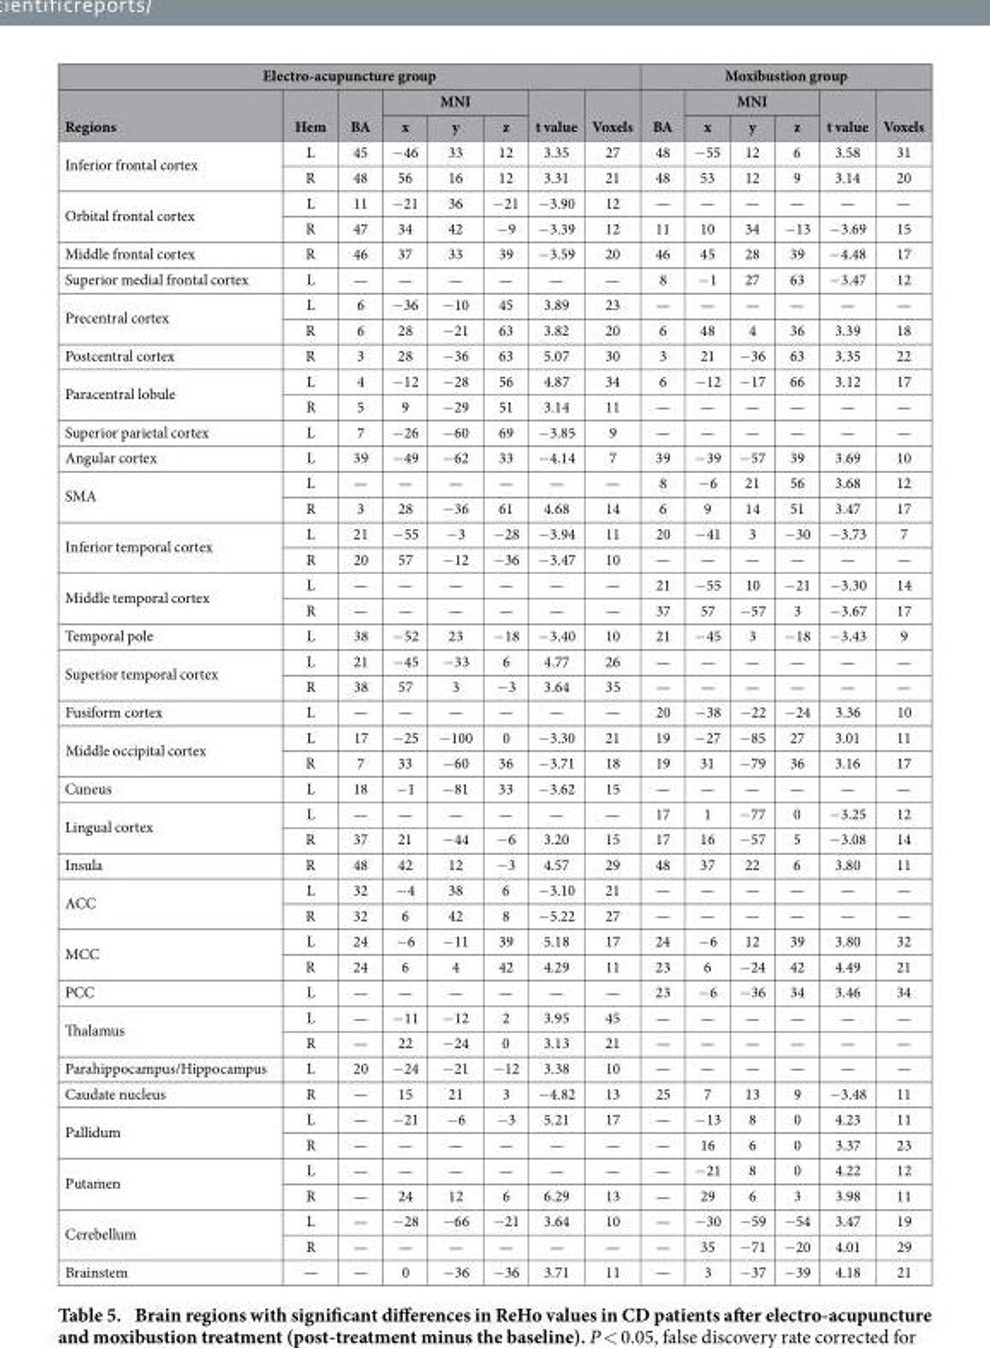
<table><thead><tr><td colspan="8">Electro-acupuncture group</td><td colspan="6">Moxibustion group</td></tr><tr><td rowspan="2">Regions</td><td rowspan="2">Hem</td><td rowspan="2">BA</td><td colspan="3">MNI</td><td rowspan="2">t value</td><td rowspan="2">Voxels</td><td rowspan="2">BA</td><td colspan="3">MNI</td><td rowspan="2">t value</td><td rowspan="2">Voxels</td></tr><tr><td>x</td><td>y</td><td>z</td><td>x</td><td>y</td><td>z</td></tr></thead><tbody><tr><td rowspan="2">Inferior frontal cortex</td><td>L</td><td>45</td><td>− 46</td><td>33</td><td>12</td><td>3.35</td><td>27</td><td>48</td><td>− 55</td><td>12</td><td>6</td><td>3.58</td><td>31</td></tr><tr><td>R</td><td>48</td><td>56</td><td>16</td><td>12</td><td>3.31</td><td>21</td><td>48</td><td>53</td><td>12</td><td>9</td><td>3.14</td><td>20</td></tr><tr><td rowspan="2">Orbital frontal cortex</td><td>L</td><td>11</td><td>− 21</td><td>36</td><td>− 21</td><td>− 3.90</td><td>12</td><td>—</td><td>—</td><td>—</td><td>—</td><td>—</td><td>—</td></tr><tr><td>R</td><td>47</td><td>34</td><td>42</td><td>− 9</td><td>− 3.39</td><td>12</td><td>11</td><td>10</td><td>34</td><td>− 13</td><td>− 3.69</td><td>15</td></tr><tr><td>Middle frontal cortex</td><td>R</td><td>46</td><td>37</td><td>33</td><td>39</td><td>− 3.59</td><td>20</td><td>46</td><td>45</td><td>28</td><td>39</td><td>− 4.48</td><td>17</td></tr><tr><td>Superior medial frontal cortex</td><td>L</td><td>—</td><td>—</td><td>—</td><td>—</td><td>—</td><td>—</td><td>8</td><td>− 1</td><td>27</td><td>63</td><td>− 3.47</td><td>12</td></tr><tr><td rowspan="2">Precentral cortex</td><td>L</td><td>6</td><td>− 36</td><td>− 10</td><td>45</td><td>3.89</td><td>23</td><td>—</td><td>—</td><td>—</td><td>—</td><td>—</td><td>—</td></tr><tr><td>R</td><td>6</td><td>28</td><td>− 21</td><td>63</td><td>3.82</td><td>20</td><td>6</td><td>48</td><td>4</td><td>36</td><td>3.39</td><td>18</td></tr><tr><td>Postcentral cortex</td><td>R</td><td>3</td><td>28</td><td>− 36</td><td>63</td><td>5.07</td><td>30</td><td>3</td><td>21</td><td>− 36</td><td>63</td><td>3.35</td><td>22</td></tr><tr><td rowspan="2">Paracentral lobule</td><td>L</td><td>4</td><td>− 12</td><td>− 28</td><td>56</td><td>4.87</td><td>34</td><td>6</td><td>− 12</td><td>− 17</td><td>66</td><td>3.12</td><td>17</td></tr><tr><td>R</td><td>5</td><td>9</td><td>− 29</td><td>51</td><td>3.14</td><td>11</td><td>—</td><td>—</td><td>—</td><td>—</td><td>—</td><td>—</td></tr><tr><td>Superior parietal cortex</td><td>L</td><td>7</td><td>− 26</td><td>− 60</td><td>69</td><td>− 3.85</td><td>9</td><td>—</td><td>—</td><td>—</td><td>—</td><td>—</td><td>—</td></tr><tr><td>Angular cortex</td><td>L</td><td>39</td><td>− 49</td><td>− 62</td><td>33</td><td>− 4.14</td><td>7</td><td>39</td><td>− 39</td><td>− 57</td><td>39</td><td>3.69</td><td>10</td></tr><tr><td rowspan="2">SMA</td><td>L</td><td>—</td><td>—</td><td>—</td><td>—</td><td>—</td><td>—</td><td>8</td><td>− 6</td><td>21</td><td>56</td><td>3.68</td><td>12</td></tr><tr><td>R</td><td>3</td><td>28</td><td>− 36</td><td>61</td><td>4.68</td><td>14</td><td>6</td><td>9</td><td>14</td><td>51</td><td>3.47</td><td>17</td></tr><tr><td rowspan="2">Inferior temporal cortex</td><td>L</td><td>21</td><td>− 55</td><td>− 3</td><td>− 28</td><td>− 3.94</td><td>11</td><td>20</td><td>− 41</td><td>3</td><td>− 30</td><td>− 3.73</td><td>7</td></tr><tr><td>R</td><td>20</td><td>57</td><td>− 12</td><td>− 36</td><td>− 3.47</td><td>10</td><td>—</td><td>—</td><td>—</td><td>—</td><td>—</td><td>—</td></tr><tr><td rowspan="2">Middle temporal cortex</td><td>L</td><td>—</td><td>—</td><td>—</td><td>—</td><td>—</td><td>—</td><td>21</td><td>− 55</td><td>10</td><td>− 21</td><td>− 3.30</td><td>14</td></tr><tr><td>R</td><td>—</td><td>—</td><td>—</td><td>—</td><td>—</td><td>—</td><td>37</td><td>57</td><td>− 57</td><td>3</td><td>− 3.67</td><td>17</td></tr><tr><td>Temporal pole</td><td>L</td><td>38</td><td>− 52</td><td>23</td><td>− 18</td><td>− 3.40</td><td>10</td><td>21</td><td>− 45</td><td>3</td><td>− 18</td><td>− 3.43</td><td>9</td></tr><tr><td rowspan="2">Superior temporal cortex</td><td>L</td><td>21</td><td>− 45</td><td>− 33</td><td>6</td><td>4.77</td><td>26</td><td>—</td><td>—</td><td>—</td><td>—</td><td>—</td><td>—</td></tr><tr><td>R</td><td>38</td><td>57</td><td>3</td><td>− 3</td><td>3.64</td><td>35</td><td>—</td><td>—</td><td>—</td><td>—</td><td>—</td><td>—</td></tr><tr><td>Fusiform cortex</td><td>L</td><td>—</td><td>—</td><td>—</td><td>—</td><td>—</td><td>—</td><td>20</td><td>− 38</td><td>− 22</td><td>− 24</td><td>3.36</td><td>10</td></tr><tr><td rowspan="2">Middle occipital cortex</td><td>L</td><td>17</td><td>− 25</td><td>− 100</td><td>0</td><td>− 3.30</td><td>21</td><td>19</td><td>− 27</td><td>− 85</td><td>27</td><td>3.01</td><td>11</td></tr><tr><td>R</td><td>7</td><td>33</td><td>− 60</td><td>36</td><td>− 3.71</td><td>18</td><td>19</td><td>31</td><td>− 79</td><td>36</td><td>3.16</td><td>17</td></tr><tr><td>Cuneus</td><td>L</td><td>18</td><td>− 1</td><td>− 81</td><td>33</td><td>− 3.62</td><td>15</td><td>—</td><td>—</td><td>—</td><td>—</td><td>—</td><td>—</td></tr><tr><td rowspan="2">Lingual cortex</td><td>L</td><td>—</td><td>—</td><td>—</td><td>—</td><td>—</td><td>—</td><td>17</td><td>1</td><td>− 77</td><td>0</td><td>− 3.25</td><td>12</td></tr><tr><td>R</td><td>37</td><td>21</td><td>− 44</td><td>− 6</td><td>3.20</td><td>15</td><td>17</td><td>16</td><td>− 57</td><td>5</td><td>− 3.08</td><td>14</td></tr><tr><td>Insula</td><td>R</td><td>48</td><td>42</td><td>12</td><td>− 3</td><td>4.57</td><td>29</td><td>48</td><td>37</td><td>22</td><td>6</td><td>3.80</td><td>11</td></tr><tr><td rowspan="2">ACC</td><td>L</td><td>32</td><td>− 4</td><td>38</td><td>6</td><td>− 3.10</td><td>21</td><td>—</td><td>—</td><td>—</td><td>—</td><td>—</td><td>—</td></tr><tr><td>R</td><td>32</td><td>6</td><td>42</td><td>8</td><td>− 5.22</td><td>27</td><td>—</td><td>—</td><td>—</td><td>—</td><td>—</td><td>—</td></tr><tr><td rowspan="2">MCC</td><td>L</td><td>24</td><td>− 6</td><td>− 11</td><td>39</td><td>5.18</td><td>17</td><td>24</td><td>− 6</td><td>12</td><td>39</td><td>3.80</td><td>32</td></tr><tr><td>R</td><td>24</td><td>6</td><td>4</td><td>42</td><td>4.29</td><td>11</td><td>23</td><td>6</td><td>− 24</td><td>42</td><td>4.49</td><td>21</td></tr><tr><td>PCC</td><td>L</td><td>—</td><td>—</td><td>—</td><td>—</td><td>—</td><td>—</td><td>23</td><td>− 6</td><td>− 36</td><td>34</td><td>3.46</td><td>34</td></tr><tr><td rowspan="2">Thalamus</td><td>L</td><td>—</td><td>− 11</td><td>− 12</td><td>2</td><td>3.95</td><td>45</td><td>—</td><td>—</td><td>—</td><td>—</td><td>—</td><td>—</td></tr><tr><td>R</td><td>—</td><td>22</td><td>− 24</td><td>0</td><td>3.13</td><td>21</td><td>—</td><td>—</td><td>—</td><td>—</td><td>—</td><td>—</td></tr><tr><td>Parahippocampus/Hippocampus</td><td>L</td><td>20</td><td>− 24</td><td>− 21</td><td>− 12</td><td>3.38</td><td>10</td><td>—</td><td>—</td><td>—</td><td>—</td><td>—</td><td>—</td></tr><tr><td>Caudate nucleus</td><td>R</td><td>—</td><td>15</td><td>21</td><td>3</td><td>− 4.82</td><td>13</td><td>25</td><td>7</td><td>13</td><td>9</td><td>− 3.48</td><td>11</td></tr><tr><td rowspan="2">Pallidum</td><td>L</td><td>—</td><td>− 21</td><td>− 6</td><td>− 3</td><td>5.21</td><td>17</td><td>—</td><td>− 13</td><td>8</td><td>0</td><td>4.23</td><td>11</td></tr><tr><td>R</td><td>—</td><td>—</td><td>—</td><td>—</td><td>—</td><td>—</td><td>—</td><td>16</td><td>6</td><td>0</td><td>3.37</td><td>23</td></tr><tr><td rowspan="2">Putamen</td><td>L</td><td>—</td><td>—</td><td>—</td><td>—</td><td>—</td><td>—</td><td>—</td><td>− 21</td><td>8</td><td>0</td><td>4.22</td><td>12</td></tr><tr><td>R</td><td>—</td><td>24</td><td>12</td><td>6</td><td>6.29</td><td>13</td><td>—</td><td>29</td><td>6</td><td>3</td><td>3.98</td><td>11</td></tr><tr><td rowspan="2">Cerebellum</td><td>L</td><td>—</td><td>− 28</td><td>− 66</td><td>− 21</td><td>3.64</td><td>10</td><td>—</td><td>− 30</td><td>− 59</td><td>− 54</td><td>3.47</td><td>19</td></tr><tr><td>R</td><td>—</td><td>—</td><td>—</td><td>—</td><td>—</td><td>—</td><td>—</td><td>35</td><td>− 71</td><td>− 20</td><td>4.01</td><td>29</td></tr><tr><td>Brainstem</td><td>—</td><td>—</td><td>0</td><td>− 36</td><td>− 36</td><td>3.71</td><td>11</td><td>—</td><td>3</td><td>− 37</td><td>− 39</td><td>4.18</td><td>21</td></tr></tbody></table>